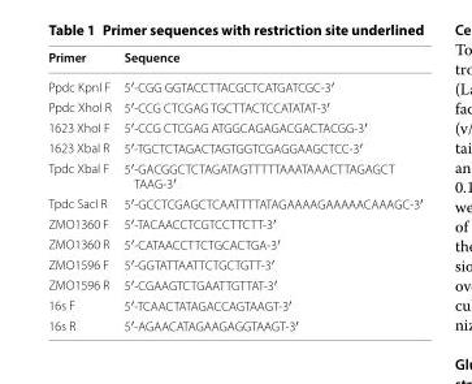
<table><thead><tr><td>Primer</td><td>Sequence</td></tr></thead><tbody><tr><td>Ppdc KpnI F</td><td>5′-CGG GGTACCTTACGCTCATGATCGC-3′</td></tr><tr><td>Ppdc XhoI R</td><td>5′-CCG CTCGAG TGCTTACTCCATATAT-3′</td></tr><tr><td>1623 XhoI F</td><td>5′-CCG CTCGAG ATGGCAGAGACGACTACGG-3′</td></tr><tr><td>1623 XbaI R</td><td>5′-TGCTCTAGACTAGTGGTCGAGGAAGCTCC-3′</td></tr><tr><td>Tpdc XbaI F</td><td>5′-GACGGCTCTAGATAGTTTTTAAATAAACTTAGAGCT TAAG-3′</td></tr><tr><td>Tpdc SacI R</td><td>5′-GCCTCGAGCTCAATTTTATAGAAAAGAAAAACAAAGC-3′</td></tr><tr><td>ZMO1360 F</td><td>5′-TACAACCTCGTCCTTCTT-3′</td></tr><tr><td>ZMO1360 R</td><td>5′-CATAACCTTCTGCACTGA-3′</td></tr><tr><td>ZMO1596 F</td><td>5′-GGTATTAATTCTGCTGTT-3′</td></tr><tr><td>ZMO1596 R</td><td>5′-CGAAGTCTGAATTGTTAT-3′</td></tr><tr><td>16s F</td><td>5′-TCAACTATAGACCAGTAAGT-3′</td></tr><tr><td>16s R</td><td>5′-AGAACATAGAAGAGGTAAGT-3′</td></tr></tbody></table>